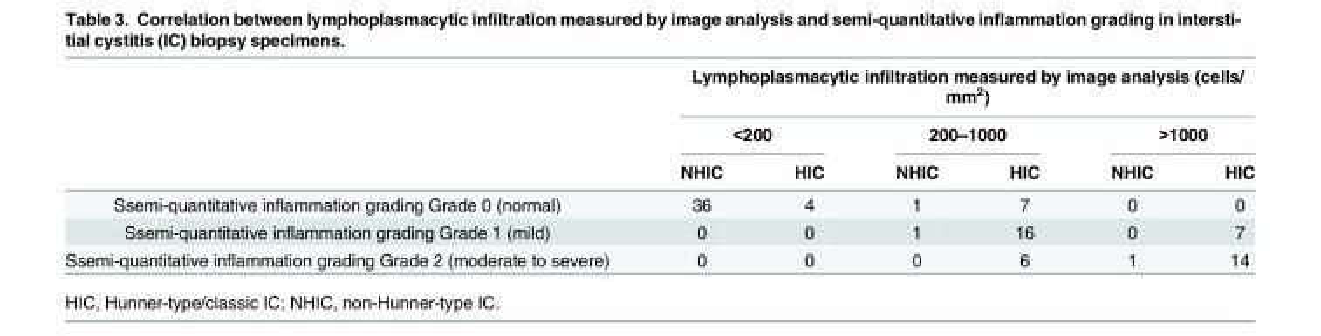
<table><thead><tr><td rowspan="3"></td><td colspan="6">Lymphoplasmacytic infiltration measured by image analysis (cells/ mm<sup>2</sup>)</td></tr><tr><td colspan="2">&lt;200</td><td colspan="2">200–1000</td><td colspan="2">&gt;1000</td></tr><tr><td>NHIC</td><td>HIC</td><td>NHIC</td><td>HIC</td><td>NHIC</td><td>HIC</td></tr></thead><tbody><tr><td>Ssemi-quantitative inflammation grading Grade 0 (normal)</td><td>36</td><td>4</td><td>1</td><td>7</td><td>0</td><td>0</td></tr><tr><td>Ssemi-quantitative inflammation grading Grade 1 (mild)</td><td>0</td><td>0</td><td>1</td><td>16</td><td>0</td><td>7</td></tr><tr><td>Ssemi-quantitative inflammation grading Grade 2 (moderate to severe)</td><td>0</td><td>0</td><td>0</td><td>6</td><td>1</td><td>14</td></tr></tbody></table>